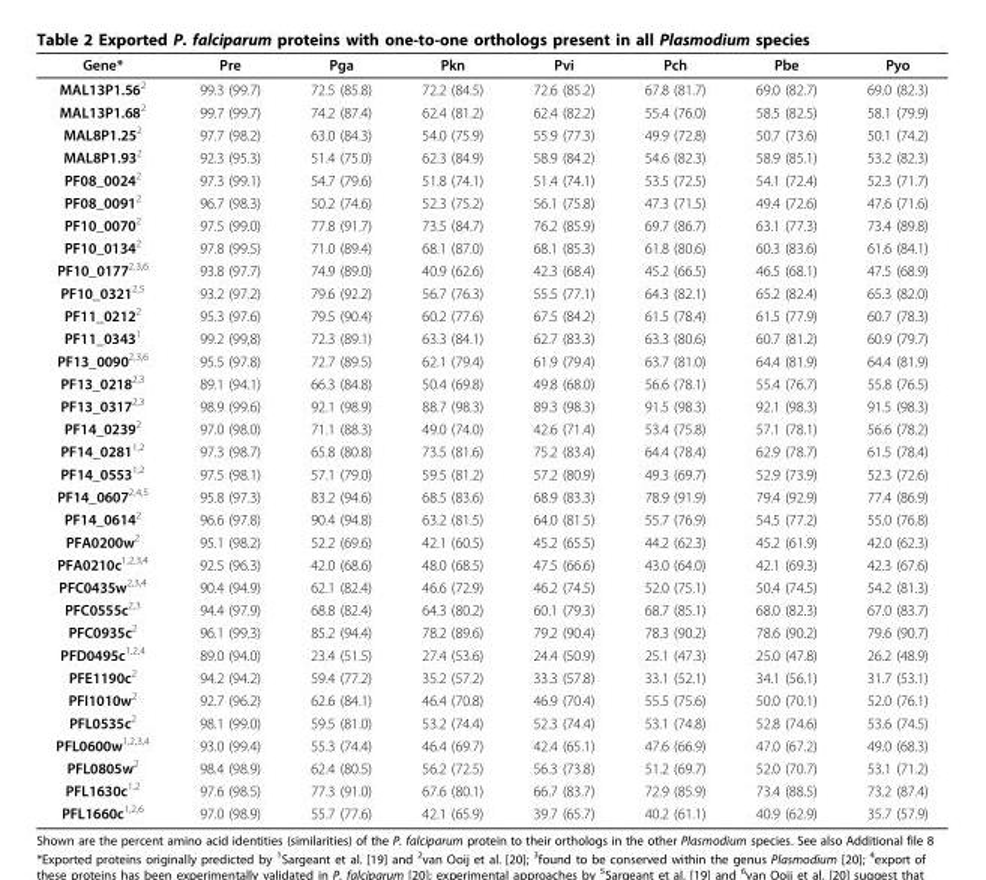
<table><thead><tr><td>Gene*</td><td>Pre</td><td>Pga</td><td>Pkn</td><td>Pvi</td><td>Pch</td><td>Pbe</td><td>Pyo</td></tr></thead><tbody><tr><td>MAL13P1.56<sup>2</sup></td><td>99.3 (99.7)</td><td>72.5 (85.8)</td><td>72.2 (84.5)</td><td>72.6 (85.2)</td><td>67.8 (81.7)</td><td>69.0 (82.7)</td><td>69.0 (82.3)</td></tr><tr><td>MAL13P1.68<sup>2</sup></td><td>99.7 (99.7)</td><td>74.2 (87.4)</td><td>62.4 (81.2)</td><td>62.4 (82.2)</td><td>55.4 (76.0)</td><td>58.5 (82.5)</td><td>58.1 (79.9)</td></tr><tr><td>MAL8P1.25<sup>2</sup></td><td>97.7 (98.2)</td><td>63.0 (84.3)</td><td>54.0 (75.9)</td><td>55.9 (77.3)</td><td>49.9 (72.8)</td><td>50.7 (73.6)</td><td>50.1 (74.2)</td></tr><tr><td>MAL8P1.93<sup>2</sup></td><td>92.3 (95.3)</td><td>51.4 (75.0)</td><td>62.3 (84.9)</td><td>58.9 (84.2)</td><td>54.6 (82.3)</td><td>58.9 (85.1)</td><td>53.2 (82.3)</td></tr><tr><td>PF08_0024<sup>2</sup></td><td>97.3 (99.1)</td><td>54.7 (79.6)</td><td>51.8 (74.1)</td><td>51.4 (74.1)</td><td>53.5 (72.5)</td><td>54.1 (72.4)</td><td>52.3 (71.7)</td></tr><tr><td>PF08_0091<sup>2</sup></td><td>96.7 (98.3)</td><td>50.2 (74.6)</td><td>52.3 (75.2)</td><td>56.1 (75.8)</td><td>47.3 (71.5)</td><td>49.4 (72.6)</td><td>47.6 (71.6)</td></tr><tr><td>PF10_0070<sup>2</sup></td><td>97.5 (99.0)</td><td>77.8 (91.7)</td><td>73.5 (84.7)</td><td>76.2 (85.9)</td><td>69.7 (86.7)</td><td>63.1 (77.3)</td><td>73.4 (89.8)</td></tr><tr><td>PF10_0134<sup>2</sup></td><td>97.8 (99.5)</td><td>71.0 (89.4)</td><td>68.1 (87.0)</td><td>68.1 (85.3)</td><td>61.8 (80.6)</td><td>60.3 (83.6)</td><td>61.6 (84.1)</td></tr><tr><td>PF10_0177<sup>2,3,6</sup></td><td>93.8 (97.7)</td><td>74.9 (89.0)</td><td>40.9 (62.6)</td><td>42.3 (68.4)</td><td>45.2 (66.5)</td><td>46.5 (68.1)</td><td>47.5 (68.9)</td></tr><tr><td>PF10_0321<sup>2,5</sup></td><td>93.2 (97.2)</td><td>79.6 (92.2)</td><td>56.7 (76.3)</td><td>55.5 (77.1)</td><td>64.3 (82.1)</td><td>65.2 (82.4)</td><td>65.3 (82.0)</td></tr><tr><td>PF11_0212<sup>2</sup></td><td>95.3 (97.6)</td><td>79.5 (90.4)</td><td>60.2 (77.6)</td><td>67.5 (84.2)</td><td>61.5 (78.4)</td><td>61.5 (77.9)</td><td>60.7 (78.3)</td></tr><tr><td>PF11_0343<sup>1</sup></td><td>99.2 (99,8)</td><td>72.3 (89.1)</td><td>63.3 (84.1)</td><td>62.7 (83.3)</td><td>63.3 (80.6)</td><td>60.7 (81.2)</td><td>60.9 (79.7)</td></tr><tr><td>PF13_0090<sup>2,3,6</sup></td><td>95.5 (97.8)</td><td>72.7 (89.5)</td><td>62.1 (79.4)</td><td>61.9 (79.4)</td><td>63.7 (81.0)</td><td>64.4 (81.9)</td><td>64.4 (81.9)</td></tr><tr><td>PF13_0218<sup>2,3</sup></td><td>89.1 (94.1)</td><td>66.3 (84.8)</td><td>50.4 (69.8)</td><td>49.8 (68.0)</td><td>56.6 (78.1)</td><td>55.4 (76.7)</td><td>55.8 (76.5)</td></tr><tr><td>PF13_0317<sup>2,3</sup></td><td>98.9 (99.6)</td><td>92.1 (98.9)</td><td>88.7 (98.3)</td><td>89.3 (98.3)</td><td>91.5 (98.3)</td><td>92.1 (98.3)</td><td>91.5 (98.3)</td></tr><tr><td>PF14_0239<sup>2</sup></td><td>97.0 (98.0)</td><td>71.1 (88.3)</td><td>49.0 (74.0)</td><td>42.6 (71.4)</td><td>53.4 (75.8)</td><td>57.1 (78.1)</td><td>56.6 (78.2)</td></tr><tr><td>PF14_0281<sup>1,2</sup></td><td>97.3 (98.7)</td><td>65.8 (80.8)</td><td>73.5 (81.6)</td><td>75.2 (83.4)</td><td>64.4 (78.4)</td><td>62.9 (78.7)</td><td>61.5 (78.4)</td></tr><tr><td>PF14_0553<sup>1,2</sup></td><td>97.5 (98.1)</td><td>57.1 (79.0)</td><td>59.5 (81.2)</td><td>57.2 (80.9)</td><td>49.3 (69.7)</td><td>52.9 (73.9)</td><td>52.3 (72.6)</td></tr><tr><td>PF14_0607<sup>2,4,5</sup></td><td>95.8 (97.3)</td><td>83.2 (94.6)</td><td>68.5 (83.6)</td><td>68.9 (83.3)</td><td>78.9 (91.9)</td><td>79.4 (92.9)</td><td>77.4 (86.9)</td></tr><tr><td>PF14_0614<sup>2</sup></td><td>96.6 (97.8)</td><td>90.4 (94.8)</td><td>63.2 (81.5)</td><td>64.0 (81.5)</td><td>55.7 (76.9)</td><td>54.5 (77.2)</td><td>55.0 (76.8)</td></tr><tr><td>PFA0200w<sup>2</sup></td><td>95.1 (98.2)</td><td>52.2 (69.6)</td><td>42.1 (60.5)</td><td>45.2 (65.5)</td><td>44.2 (62.3)</td><td>45.2 (61.9)</td><td>42.0 (62.3)</td></tr><tr><td>PFA0210c<sup>1,2,3,4</sup></td><td>92.5 (96.3)</td><td>42.0 (68.6)</td><td>48.0 (68.5)</td><td>47.5 (66.6)</td><td>43.0 (64.0)</td><td>42.1 (69.3)</td><td>42.3 (67.6)</td></tr><tr><td>PFC0435w<sup>2,3,4</sup></td><td>90.4 (94.9)</td><td>62.1 (82.4)</td><td>46.6 (72.9)</td><td>46.2 (74.5)</td><td>52.0 (75.1)</td><td>50.4 (74.5)</td><td>54.2 (81.3)</td></tr><tr><td>PFC0555c<sup>2,3</sup></td><td>94.4 (97.9)</td><td>68.8 (82.4)</td><td>64.3 (80.2)</td><td>60.1 (79.3)</td><td>68.7 (85.1)</td><td>68.0 (82.3)</td><td>67.0 (83.7)</td></tr><tr><td>PFC0935c<sup>2</sup></td><td>96.1 (99.3)</td><td>85.2 (94.4)</td><td>78.2 (89.6)</td><td>79.2 (90.4)</td><td>78.3 (90.2)</td><td>78.6 (90.2)</td><td>79.6 (90.7)</td></tr><tr><td>PFD0495c<sup>1,2,4</sup></td><td>89.0 (94.0)</td><td>23.4 (51.5)</td><td>27.4 (53.6)</td><td>24.4 (50.9)</td><td>25.1 (47.3)</td><td>25.0 (47.8)</td><td>26.2 (48.9)</td></tr><tr><td>PFE1190c<sup>2</sup></td><td>94.2 (94.2)</td><td>59.4 (77.2)</td><td>35.2 (57.2)</td><td>33.3 (57.8)</td><td>33.1 (52.1)</td><td>34.1 (56.1)</td><td>31.7 (53.1)</td></tr><tr><td>PFI1010w<sup>2</sup></td><td>92.7 (96.2)</td><td>62.6 (84.1)</td><td>46.4 (70.8)</td><td>46.9 (70.4)</td><td>55.5 (75.6)</td><td>50.0 (70.1)</td><td>52.0 (76.1)</td></tr><tr><td>PFL0535c<sup>2</sup></td><td>98.1 (99.0)</td><td>59.5 (81.0)</td><td>53.2 (74.4)</td><td>52.3 (74.4)</td><td>53.1 (74.8)</td><td>52.8 (74.6)</td><td>53.6 (74.5)</td></tr><tr><td>PFL0600w<sup>1,2,3,4</sup></td><td>93.0 (99.4)</td><td>55.3 (74.4)</td><td>46.4 (69.7)</td><td>42.4 (65.1)</td><td>47.6 (66.9)</td><td>47.0 (67.2)</td><td>49.0 (68.3)</td></tr><tr><td>PFL0805w<sup>2</sup></td><td>98.4 (98.9)</td><td>62.4 (80.5)</td><td>56.2 (72.5)</td><td>56.3 (73.8)</td><td>51.2 (69.7)</td><td>52.0 (70.7)</td><td>53.1 (71.2)</td></tr><tr><td>PFL1630c<sup>1,2</sup></td><td>97.6 (98.5)</td><td>77.3 (91.0)</td><td>67.6 (80.1)</td><td>66.7 (83.7)</td><td>72.9 (85.9)</td><td>73.4 (88.5)</td><td>73.2 (87.4)</td></tr><tr><td>PFL1660c<sup>1,2,6</sup></td><td>97.0 (98.9)</td><td>55.7 (77.6)</td><td>42.1 (65.9)</td><td>39.7 (65.7)</td><td>40.2 (61.1)</td><td>40.9 (62.9)</td><td>35.7 (57.9)</td></tr></tbody></table>